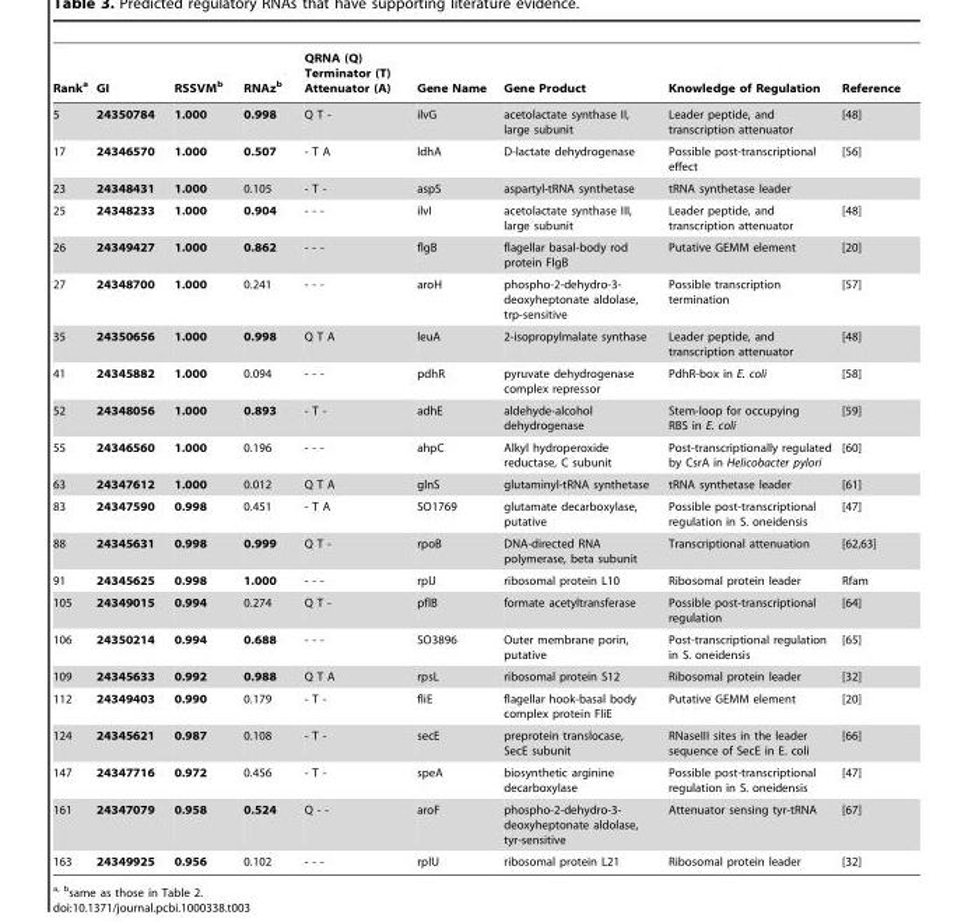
<table><thead><tr><td>Rank<sup>a</sup></td><td>GI</td><td>RSSVM<sup>b</sup></td><td>RNAz<sup>b</sup></td><td>QRNA (Q) Terminator (T) Attenuator (A)</td><td>Gene Name</td><td>Gene Product</td><td>Knowledge of Regulation</td><td>Reference</td></tr></thead><tbody><tr><td>5</td><td>24350784</td><td>1.000</td><td>0.998</td><td>Q T -</td><td>ilvG</td><td>acetolactate synthase II, large subunit</td><td>Leader peptide, and transcription attenuator</td><td>[48]</td></tr><tr><td>17</td><td>24346570</td><td>1.000</td><td>0.507</td><td>- T A</td><td>ldhA</td><td>D-lactate dehydrogenase</td><td>Possible post-transcriptional effect</td><td>[56]</td></tr><tr><td>23</td><td>24348431</td><td>1.000</td><td>0.105</td><td>- T -</td><td>aspS</td><td>aspartyl-tRNA synthetase</td><td>tRNA synthetase leader</td><td></td></tr><tr><td>25</td><td>24348233</td><td>1.000</td><td>0.904</td><td>- - -</td><td>ilvI</td><td>acetolactate synthase III, large subunit</td><td>Leader peptide, and transcription attenuator</td><td>[48]</td></tr><tr><td>26</td><td>24349427</td><td>1.000</td><td>0.862</td><td>- - -</td><td>flgB</td><td>flagellar basal-body rod protein FlgB</td><td>Putative GEMM element</td><td>[20]</td></tr><tr><td>27</td><td>24348700</td><td>1.000</td><td>0.241</td><td>- - -</td><td>aroH</td><td>phospho-2-dehydro-3- deoxyheptonate aldolase, trp-sensitive</td><td>Possible transcription termination</td><td>[57]</td></tr><tr><td>35</td><td>24350656</td><td>1.000</td><td>0.998</td><td>Q T A</td><td>leuA</td><td>2-isopropylmalate synthase</td><td>Leader peptide, and transcription attenuator</td><td>[48]</td></tr><tr><td>41</td><td>24345882</td><td>1.000</td><td>0.094</td><td>- - -</td><td>pdhR</td><td>pyruvate dehydrogenase complex repressor</td><td>PdhR-box in E. coli</td><td>[58]</td></tr><tr><td>52</td><td>24348056</td><td>1.000</td><td>0.893</td><td>- T -</td><td>adhE</td><td>aldehyde-alcohol dehydrogenase</td><td>Stem-loop for occupying RBS in E. coli</td><td>[59]</td></tr><tr><td>55</td><td>24346560</td><td>1.000</td><td>0.196</td><td>- - -</td><td>ahpC</td><td>Alkyl hydroperoxide reductase, C subunit</td><td>Post-transcriptionally regulated by CsrA in Helicobacter pylori</td><td>[60]</td></tr><tr><td>63</td><td>24347612</td><td>1.000</td><td>0.012</td><td>Q T A</td><td>glnS</td><td>glutaminyl-tRNA synthetase</td><td>tRNA synthetase leader</td><td>[61]</td></tr><tr><td>83</td><td>24347590</td><td>0.998</td><td>0.451</td><td>- T A</td><td>SO1769</td><td>glutamate decarboxylase, putative</td><td>Possible post-transcriptional regulation in S. oneidensis</td><td>[47]</td></tr><tr><td>88</td><td>24345631</td><td>0.998</td><td>0.999</td><td>Q T -</td><td>rpoB</td><td>DNA-directed RNA polymerase, beta subunit</td><td>Transcriptional attenuation</td><td>[62,63]</td></tr><tr><td>91</td><td>24345625</td><td>0.998</td><td>1.000</td><td>- - -</td><td>rplJ</td><td>ribosomal protein L10</td><td>Ribosomal protein leader</td><td>Rfam</td></tr><tr><td>105</td><td>24349015</td><td>0.994</td><td>0.274</td><td>Q T -</td><td>pflB</td><td>formate acetyltransferase</td><td>Possible post-transcriptional regulation</td><td>[64]</td></tr><tr><td>106</td><td>24350214</td><td>0.994</td><td>0.688</td><td>- - -</td><td>SO3896</td><td>Outer membrane porin, putative</td><td>Post-transcriptional regulation in S. oneidensis</td><td>[65]</td></tr><tr><td>109</td><td>24345633</td><td>0.992</td><td>0.988</td><td>Q T A</td><td>rpsL</td><td>ribosomal protein S12</td><td>Ribosomal protein leader</td><td>[32]</td></tr><tr><td>112</td><td>24349403</td><td>0.990</td><td>0.179</td><td>- T -</td><td>fliE</td><td>flagellar hook-basal body complex protein FliE</td><td>Putative GEMM element</td><td>[20]</td></tr><tr><td>124</td><td>24345621</td><td>0.987</td><td>0.108</td><td>- T -</td><td>secE</td><td>preprotein translocase, SecE subunit</td><td>RNaseIII sites in the leader sequence of SecE in E. coli</td><td>[66]</td></tr><tr><td>147</td><td>24347716</td><td>0.972</td><td>0.456</td><td>- T -</td><td>speA</td><td>biosynthetic arginine decarboxylase</td><td>Possible post-transcriptional regulation in S. oneidensis</td><td>[47]</td></tr><tr><td>161</td><td>24347079</td><td>0.958</td><td>0.524</td><td>Q - -</td><td>aroF</td><td>phospho-2-dehydro-3- deoxyheptonate aldolase, tyr-sensitive</td><td>Attenuator sensing tyr-tRNA</td><td>[67]</td></tr><tr><td>163</td><td>24349925</td><td>0.956</td><td>0.102</td><td>- - -</td><td>rplU</td><td>ribosomal protein L21</td><td>Ribosomal protein leader</td><td>[32]</td></tr></tbody></table>